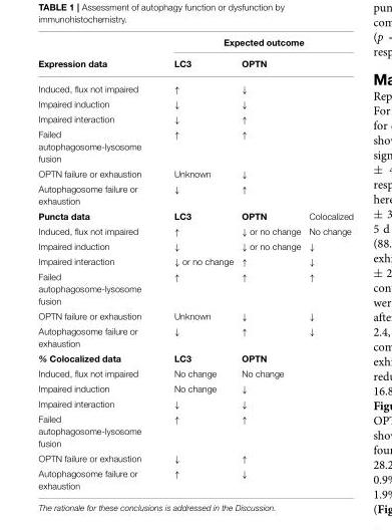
<table><thead><tr><td rowspan="2">Expression data</td><td colspan="3">Expected outcome</td></tr><tr><td>LC3</td><td>OPTN</td><td></td></tr></thead><tbody><tr><td>Induced, flux not impaired</td><td>↑</td><td>↓</td><td></td></tr><tr><td>Impaired induction</td><td>↓</td><td>↓</td><td></td></tr><tr><td>Impaired interaction</td><td>↓</td><td>↑</td><td></td></tr><tr><td>Failed autophagosome-lysosome fusion</td><td>↑</td><td>↑</td><td></td></tr><tr><td>OPTN failure or exhaustion</td><td>Unknown</td><td>↓</td><td></td></tr><tr><td>Autophagosome failure or exhaustion</td><td>↓</td><td>↑</td><td></td></tr><tr><td>Puncta data</td><td>LC3</td><td>OPTN</td><td>Colocalized</td></tr><tr><td>Induced, flux not impaired</td><td>↑</td><td>↓ or no change</td><td>No change</td></tr><tr><td>Impaired induction</td><td>↓</td><td>↓ or no change</td><td>↓</td></tr><tr><td>Impaired interaction</td><td>↓ or no change</td><td>↑</td><td>↓</td></tr><tr><td>Failed autophagosome-lysosome fusion</td><td>↑</td><td>↑</td><td>↑</td></tr><tr><td>OPTN failure or exhaustion</td><td>Unknown</td><td>↓</td><td>↓</td></tr><tr><td>Autophagosome failure or exhaustion</td><td>↓</td><td>↑</td><td>↓</td></tr><tr><td>% Colocalized data</td><td>LC3</td><td>OPTN</td><td></td></tr><tr><td>Induced, flux not impaired</td><td>No change</td><td>No change</td><td></td></tr><tr><td>Impaired induction</td><td>No change</td><td>↓</td><td></td></tr><tr><td>Impaired interaction</td><td>↓</td><td>↓</td><td></td></tr><tr><td>Failed autophagosome-lysosome fusion</td><td>↑</td><td>↑</td><td></td></tr><tr><td>OPTN failure or exhaustion</td><td>↓</td><td>↑</td><td></td></tr><tr><td>Autophagosome failure or exhaustion</td><td>↑</td><td>↓</td><td></td></tr></tbody></table>